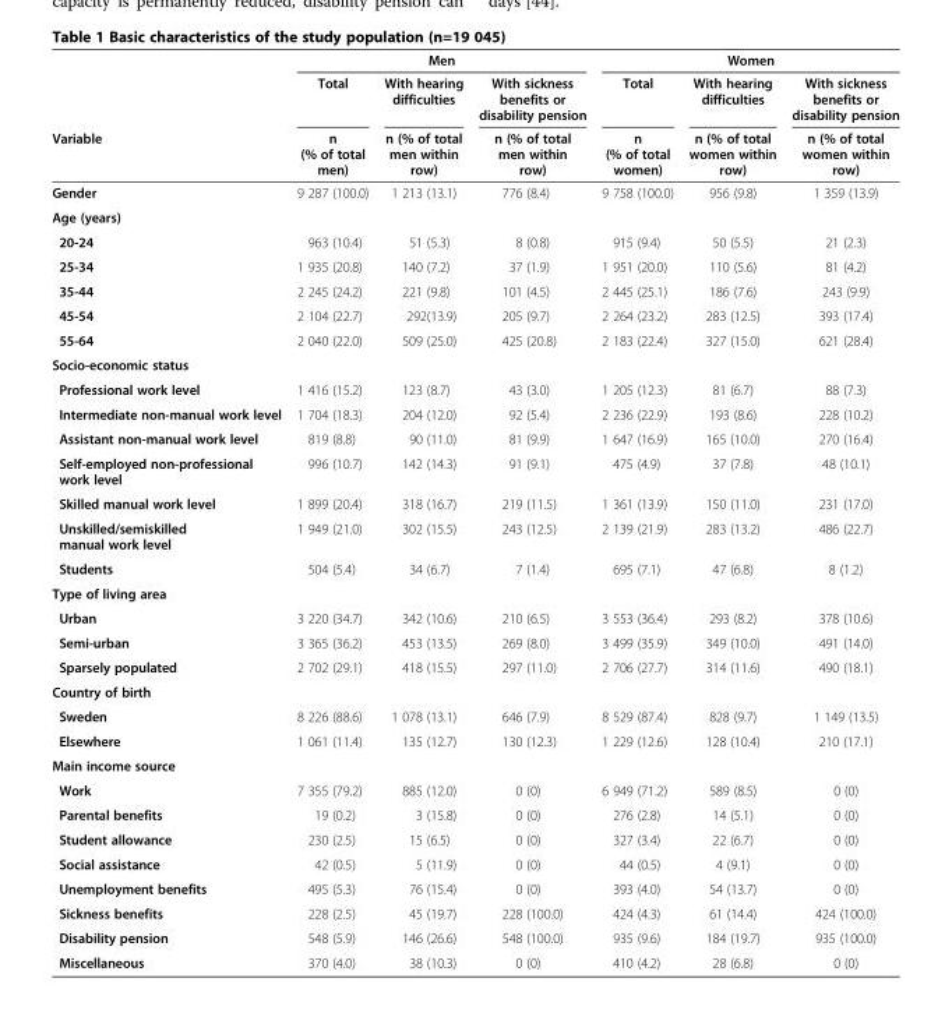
<table><thead><tr><td rowspan="3">Variable</td><td colspan="3">Men</td><td colspan="3">Women</td></tr><tr><td rowspan="2">Total n (% of total men)</td><td rowspan="2">With hearing difficulties n (% of total men within row)</td><td rowspan="2">With sickness benefits or disability pension n (% of total men within row)</td><td rowspan="2">Total n (% of total women)</td><td rowspan="2">With hearing difficulties n (% of total women within row)</td><td rowspan="2">With sickness benefits or disability pension n (% of total women within row)</td></tr><tr></tr></thead><tbody><tr><td>Gender</td><td>9 287 (100.0)</td><td>1 213 (13.1)</td><td>776 (8.4)</td><td>9 758 (100.0)</td><td>956 (9.8)</td><td>1 359 (13.9)</td></tr><tr><td colspan="7">Age (years)</td></tr><tr><td>20-24</td><td>963 (10.4)</td><td>51 (5.3)</td><td>8 (0.8)</td><td>915 (9.4)</td><td>50 (5.5)</td><td>21 (2.3)</td></tr><tr><td>25-34</td><td>1 935 (20.8)</td><td>140 (7.2)</td><td>37 (1.9)</td><td>1 951 (20.0)</td><td>110 (5.6)</td><td>81 (4.2)</td></tr><tr><td>35-44</td><td>2 245 (24.2)</td><td>221 (9.8)</td><td>101 (4.5)</td><td>2 445 (25.1)</td><td>186 (7.6)</td><td>243 (9.9)</td></tr><tr><td>45-54</td><td>2 104 (22.7)</td><td>292(13.9)</td><td>205 (9.7)</td><td>2 264 (23.2)</td><td>283 (12.5)</td><td>393 (17.4)</td></tr><tr><td>55-64</td><td>2 040 (22.0)</td><td>509 (25.0)</td><td>425 (20.8)</td><td>2 183 (22.4)</td><td>327 (15.0)</td><td>621 (28.4)</td></tr><tr><td colspan="7">Socio-economic status</td></tr><tr><td>Professional work level</td><td>1 416 (15.2)</td><td>123 (8.7)</td><td>43 (3.0)</td><td>1 205 (12.3)</td><td>81 (6.7)</td><td>88 (7.3)</td></tr><tr><td>Intermediate non-manual work level</td><td>1 704 (18.3)</td><td>204 (12.0)</td><td>92 (5.4)</td><td>2 236 (22.9)</td><td>193 (8.6)</td><td>228 (10.2)</td></tr><tr><td>Assistant non-manual work level</td><td>819 (8.8)</td><td>90 (11.0)</td><td>81 (9.9)</td><td>1 647 (16.9)</td><td>165 (10.0)</td><td>270 (16.4)</td></tr><tr><td>Self-employed non-professional work level</td><td>996 (10.7)</td><td>142 (14.3)</td><td>91 (9.1)</td><td>475 (4.9)</td><td>37 (7.8)</td><td>48 (10.1)</td></tr><tr><td>Skilled manual work level</td><td>1 899 (20.4)</td><td>318 (16.7)</td><td>219 (11.5)</td><td>1 361 (13.9)</td><td>150 (11.0)</td><td>231 (17.0)</td></tr><tr><td>Unskilled/semiskilled manual work level</td><td>1 949 (21.0)</td><td>302 (15.5)</td><td>243 (12.5)</td><td>2 139 (21.9)</td><td>283 (13.2)</td><td>486 (22.7)</td></tr><tr><td>Students</td><td>504 (5.4)</td><td>34 (6.7)</td><td>7 (1.4)</td><td>695 (7.1)</td><td>47 (6.8)</td><td>8 (1.2)</td></tr><tr><td colspan="7">Type of living area</td></tr><tr><td>Urban</td><td>3 220 (34.7)</td><td>342 (10.6)</td><td>210 (6.5)</td><td>3 553 (36.4)</td><td>293 (8.2)</td><td>378 (10.6)</td></tr><tr><td>Semi-urban</td><td>3 365 (36.2)</td><td>453 (13.5)</td><td>269 (8.0)</td><td>3 499 (35.9)</td><td>349 (10.0)</td><td>491 (14.0)</td></tr><tr><td>Sparsely populated</td><td>2 702 (29.1)</td><td>418 (15.5)</td><td>297 (11.0)</td><td>2 706 (27.7)</td><td>314 (11.6)</td><td>490 (18.1)</td></tr><tr><td colspan="7">Country of birth</td></tr><tr><td>Sweden</td><td>8 226 (88.6)</td><td>1 078 (13.1)</td><td>646 (7.9)</td><td>8 529 (87.4)</td><td>828 (9.7)</td><td>1 149 (13.5)</td></tr><tr><td>Elsewhere</td><td>1 061 (11.4)</td><td>135 (12.7)</td><td>130 (12.3)</td><td>1 229 (12.6)</td><td>128 (10.4)</td><td>210 (17.1)</td></tr><tr><td colspan="7">Main income source</td></tr><tr><td>Work</td><td>7 355 (79.2)</td><td>885 (12.0)</td><td>0 (0)</td><td>6 949 (71.2)</td><td>589 (8.5)</td><td>0 (0)</td></tr><tr><td>Parental benefits</td><td>19 (0.2)</td><td>3 (15.8)</td><td>0 (0)</td><td>276 (2.8)</td><td>14 (5.1)</td><td>0 (0)</td></tr><tr><td>Student allowance</td><td>230 (2.5)</td><td>15 (6.5)</td><td>0 (0)</td><td>327 (3.4)</td><td>22 (6.7)</td><td>0 (0)</td></tr><tr><td>Social assistance</td><td>42 (0.5)</td><td>5 (11.9)</td><td>0 (0)</td><td>44 (0.5)</td><td>4 (9.1)</td><td>0 (0)</td></tr><tr><td>Unemployment benefits</td><td>495 (5.3)</td><td>76 (15.4)</td><td>0 (0)</td><td>393 (4.0)</td><td>54 (13.7)</td><td>0 (0)</td></tr><tr><td>Sickness benefits</td><td>228 (2.5)</td><td>45 (19.7)</td><td>228 (100.0)</td><td>424 (4.3)</td><td>61 (14.4)</td><td>424 (100.0)</td></tr><tr><td>Disability pension</td><td>548 (5.9)</td><td>146 (26.6)</td><td>548 (100.0)</td><td>935 (9.6)</td><td>184 (19.7)</td><td>935 (100.0)</td></tr><tr><td>Miscellaneous</td><td>370 (4.0)</td><td>38 (10.3)</td><td>0 (0)</td><td>410 (4.2)</td><td>28 (6.8)</td><td>0 (0)</td></tr></tbody></table>